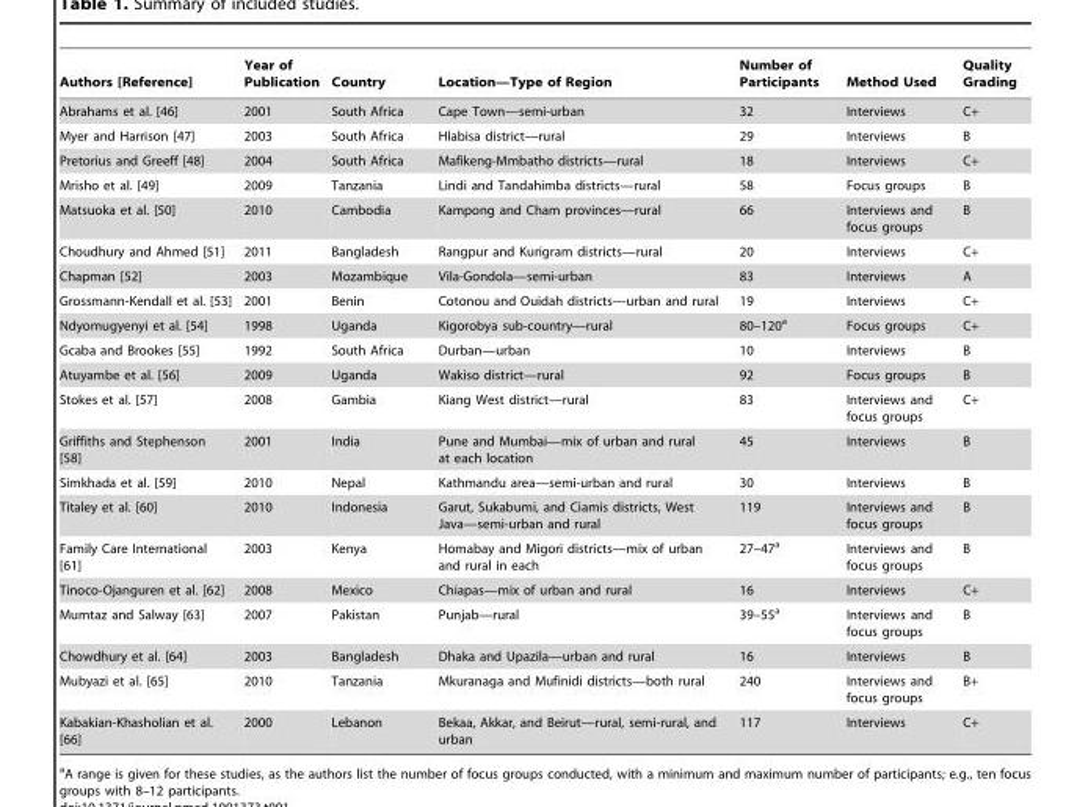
<table><thead><tr><td>Authors [Reference]</td><td>Year of Publication</td><td>Country</td><td>Location—Type of Region</td><td>Number of Participants</td><td>Method Used</td><td>Quality Grading</td></tr></thead><tbody><tr><td>Abrahams et al. [46]</td><td>2001</td><td>South Africa</td><td>Cape Town—semi-urban</td><td>32</td><td>Interviews</td><td>C+</td></tr><tr><td>Myer and Harrison [47]</td><td>2003</td><td>South Africa</td><td>Hlabisa district—rural</td><td>29</td><td>Interviews</td><td>B</td></tr><tr><td>Pretorius and Greeff [48]</td><td>2004</td><td>South Africa</td><td>Mafikeng-Mmbatho districts—rural</td><td>18</td><td>Interviews</td><td>C+</td></tr><tr><td>Mrisho et al. [49]</td><td>2009</td><td>Tanzania</td><td>Lindi and Tandahimba districts—rural</td><td>58</td><td>Focus groups</td><td>B</td></tr><tr><td>Matsuoka et al. [50]</td><td>2010</td><td>Cambodia</td><td>Kampong and Cham provinces—rural</td><td>66</td><td>Interviews and focus groups</td><td>B</td></tr><tr><td>Choudhury and Ahmed [51]</td><td>2011</td><td>Bangladesh</td><td>Rangpur and Kurigram districts—rural</td><td>20</td><td>Interviews</td><td>C+</td></tr><tr><td>Chapman [52]</td><td>2003</td><td>Mozambique</td><td>Vila-Gondola—semi-urban</td><td>83</td><td>Interviews</td><td>A</td></tr><tr><td>Grossmann-Kendall et al. [53]</td><td>2001</td><td>Benin</td><td>Cotonou and Ouidah districts—urban and rural</td><td>19</td><td>Interviews</td><td>C+</td></tr><tr><td>Ndyomugyenyi et al. [54]</td><td>1998</td><td>Uganda</td><td>Kigorobya sub-country—rural</td><td>80–120<sup>a</sup></td><td>Focus groups</td><td>C+</td></tr><tr><td>Gcaba and Brookes [55]</td><td>1992</td><td>South Africa</td><td>Durban—urban</td><td>10</td><td>Interviews</td><td>B</td></tr><tr><td>Atuyambe et al. [56]</td><td>2009</td><td>Uganda</td><td>Wakiso district—rural</td><td>92</td><td>Focus groups</td><td>B</td></tr><tr><td>Stokes et al. [57]</td><td>2008</td><td>Gambia</td><td>Kiang West district—rural</td><td>83</td><td>Interviews and focus groups</td><td>C+</td></tr><tr><td>Griffiths and Stephenson [58]</td><td>2001</td><td>India</td><td>Pune and Mumbai—mix of urban and rural at each location</td><td>45</td><td>Interviews</td><td>B</td></tr><tr><td>Simkhada et al. [59]</td><td>2010</td><td>Nepal</td><td>Kathmandu area—semi-urban and rural</td><td>30</td><td>Interviews</td><td>B</td></tr><tr><td>Titaley et al. [60]</td><td>2010</td><td>Indonesia</td><td>Garut, Sukabumi, and Ciamis districts, West Java—semi-urban and rural</td><td>119</td><td>Interviews and focus groups</td><td>B</td></tr><tr><td>Family Care International [61]</td><td>2003</td><td>Kenya</td><td>Homabay and Migori districts—mix of urban and rural in each</td><td>27–47<sup>a</sup></td><td>Interviews and focus groups</td><td>B</td></tr><tr><td>Tinoco-Ojanguren et al. [62]</td><td>2008</td><td>Mexico</td><td>Chiapas—mix of urban and rural</td><td>16</td><td>Interviews</td><td>C+</td></tr><tr><td>Mumtaz and Salway [63]</td><td>2007</td><td>Pakistan</td><td>Punjab—rural</td><td>39–55<sup>a</sup></td><td>Interviews and focus groups</td><td>B</td></tr><tr><td>Chowdhury et al. [64]</td><td>2003</td><td>Bangladesh</td><td>Dhaka and Upazila—urban and rural</td><td>16</td><td>Interviews</td><td>B</td></tr><tr><td>Mubyazi et al. [65]</td><td>2010</td><td>Tanzania</td><td>Mkuranaga and Mufinidi districts—both rural</td><td>240</td><td>Interviews and focus groups</td><td>B+</td></tr><tr><td>Kabakian-Khasholian et al. [66]</td><td>2000</td><td>Lebanon</td><td>Bekaa, Akkar, and Beirut—rural, semi-rural, and urban</td><td>117</td><td>Interviews</td><td>C+</td></tr></tbody></table>